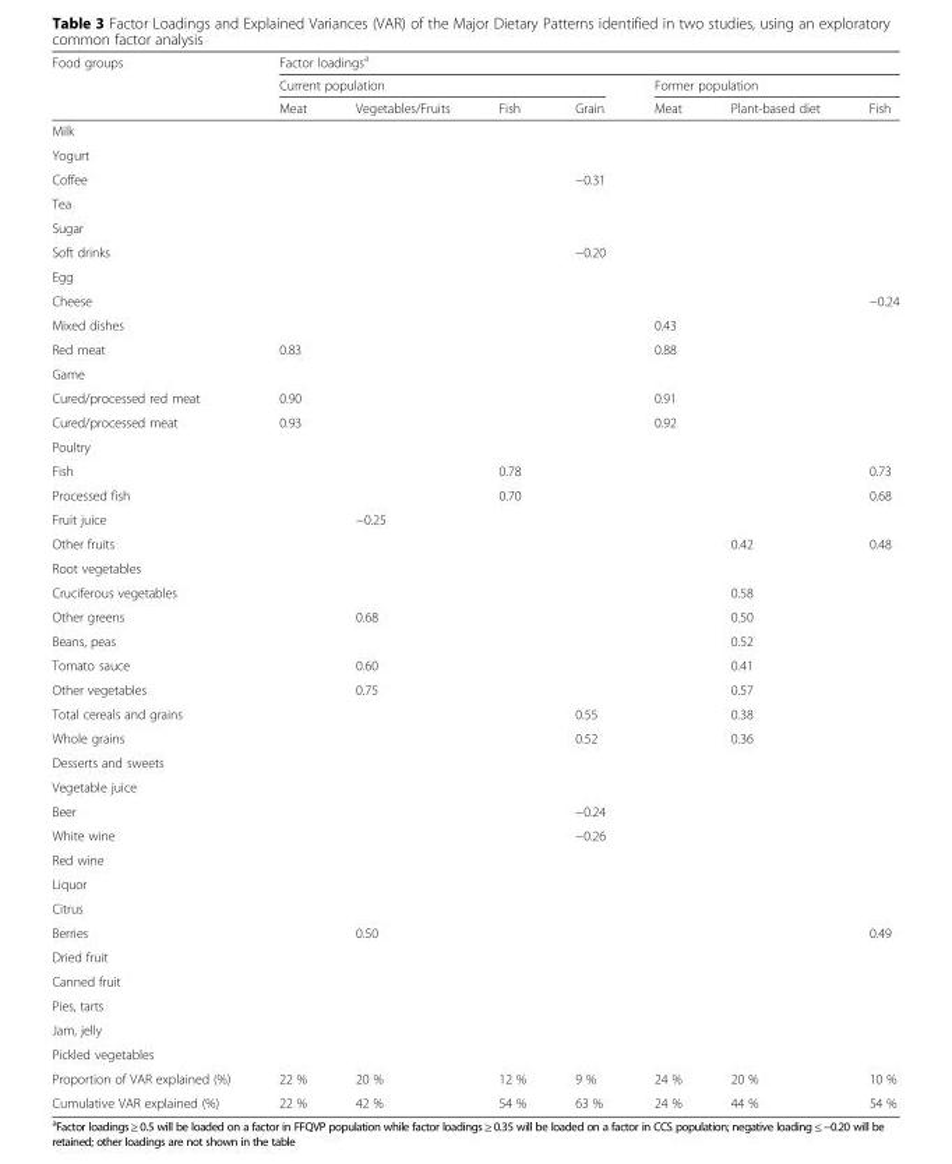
<table><thead><tr><td rowspan="3">Food groups</td><td colspan="7">Factor loadings<sup>a</sup></td></tr><tr><td colspan="4">Current population</td><td colspan="3">Former population</td></tr><tr><td>Meat</td><td>Vegetables/Fruits</td><td>Fish</td><td>Grain</td><td>Meat</td><td>Plant-based diet</td><td>Fish</td></tr></thead><tbody><tr><td colspan="8">Milk</td></tr><tr><td colspan="8">Yogurt</td></tr><tr><td>Coffee</td><td></td><td></td><td></td><td>−0.31</td><td></td><td></td><td></td></tr><tr><td colspan="8">Tea</td></tr><tr><td colspan="8">Sugar</td></tr><tr><td>Soft drinks</td><td></td><td></td><td></td><td>−0.20</td><td></td><td></td><td></td></tr><tr><td colspan="8">Egg</td></tr><tr><td>Cheese</td><td></td><td></td><td></td><td></td><td></td><td></td><td>−0.24</td></tr><tr><td>Mixed dishes</td><td></td><td></td><td></td><td></td><td>0.43</td><td></td><td></td></tr><tr><td>Red meat</td><td>0.83</td><td></td><td></td><td></td><td>0.88</td><td></td><td></td></tr><tr><td colspan="8">Game</td></tr><tr><td>Cured/processed red meat</td><td>0.90</td><td></td><td></td><td></td><td>0.91</td><td></td><td></td></tr><tr><td>Cured/processed meat</td><td>0.93</td><td></td><td></td><td></td><td>0.92</td><td></td><td></td></tr><tr><td colspan="8">Poultry</td></tr><tr><td>Fish</td><td></td><td></td><td>0.78</td><td></td><td></td><td></td><td>0.73</td></tr><tr><td>Processed fish</td><td></td><td></td><td>0.70</td><td></td><td></td><td></td><td>0.68</td></tr><tr><td>Fruit juice</td><td></td><td>−0.25</td><td></td><td></td><td></td><td></td><td></td></tr><tr><td>Other fruits</td><td></td><td></td><td></td><td></td><td></td><td>0.42</td><td>0.48</td></tr><tr><td colspan="8">Root vegetables</td></tr><tr><td>Cruciferous vegetables</td><td></td><td></td><td></td><td></td><td></td><td>0.58</td><td></td></tr><tr><td>Other greens</td><td></td><td>0.68</td><td></td><td></td><td></td><td>0.50</td><td></td></tr><tr><td>Beans, peas</td><td></td><td></td><td></td><td></td><td></td><td>0.52</td><td></td></tr><tr><td>Tomato sauce</td><td></td><td>0.60</td><td></td><td></td><td></td><td>0.41</td><td></td></tr><tr><td>Other vegetables</td><td></td><td>0.75</td><td></td><td></td><td></td><td>0.57</td><td></td></tr><tr><td>Total cereals and grains</td><td></td><td></td><td></td><td>0.55</td><td></td><td>0.38</td><td></td></tr><tr><td>Whole grains</td><td></td><td></td><td></td><td>0.52</td><td></td><td>0.36</td><td></td></tr><tr><td colspan="8">Desserts and sweets</td></tr><tr><td colspan="8">Vegetable juice</td></tr><tr><td>Beer</td><td></td><td></td><td></td><td>−0.24</td><td></td><td></td><td></td></tr><tr><td>White wine</td><td></td><td></td><td></td><td>−0.26</td><td></td><td></td><td></td></tr><tr><td colspan="8">Red wine</td></tr><tr><td colspan="8">Liquor</td></tr><tr><td colspan="8">Citrus</td></tr><tr><td>Berries</td><td></td><td>0.50</td><td></td><td></td><td></td><td></td><td>0.49</td></tr><tr><td colspan="8">Dried fruit</td></tr><tr><td colspan="8">Canned fruit</td></tr><tr><td colspan="8">Pies, tarts</td></tr><tr><td colspan="8">Jam, jelly</td></tr><tr><td colspan="8">Pickled vegetables</td></tr><tr><td>Proportion of VAR explained (%)</td><td>22 %</td><td>20 %</td><td>12 %</td><td>9 %</td><td>24 %</td><td>20 %</td><td>10 %</td></tr><tr><td>Cumulative VAR explained (%)</td><td>22 %</td><td>42 %</td><td>54 %</td><td>63 %</td><td>24 %</td><td>44 %</td><td>54 %</td></tr></tbody></table>